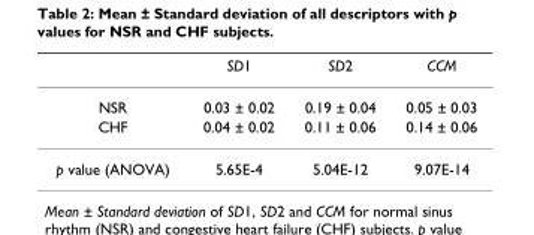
<table><thead><tr><td></td><td>SD1</td><td>SD2</td><td>CCM</td></tr></thead><tbody><tr><td>NSR</td><td>0.03 ± 0.02</td><td>0.19 ± 0.04</td><td>0.05 ± 0.03</td></tr><tr><td>CHF</td><td>0.04 ± 0.02</td><td>0.11 ± 0.06</td><td>0.14 ± 0.06</td></tr><tr><td>p value (ANOVA)</td><td>5.65E-4</td><td>5.04E-12</td><td>9.07E-14</td></tr></tbody></table>